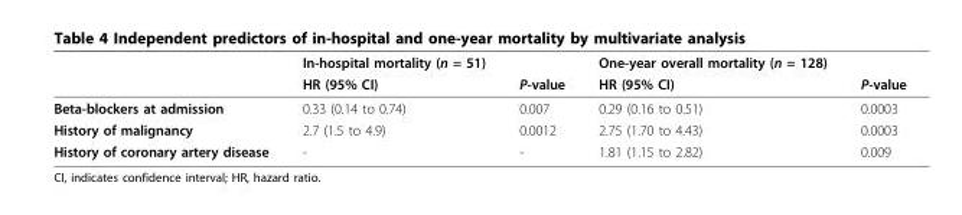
<table><thead><tr><td rowspan="2"></td><td rowspan="2">In-hospital mortality (n = 51) HR (95% CI)</td><td rowspan="2">P-value</td><td rowspan="2">One-year overall mortality (n = 128) HR (95% CI)</td><td rowspan="2">P-value</td></tr><tr></tr></thead><tbody><tr><td>Beta-blockers at admission</td><td>0.33 (0.14 to 0.74)</td><td>0.007</td><td>0.29 (0.16 to 0.51)</td><td>0.0003</td></tr><tr><td>History of malignancy</td><td>2.7 (1.5 to 4.9)</td><td>0.0012</td><td>2.75 (1.70 to 4.43)</td><td>0.0003</td></tr><tr><td>History of coronary artery disease</td><td>-</td><td>-</td><td>1.81 (1.15 to 2.82)</td><td>0.009</td></tr></tbody></table>